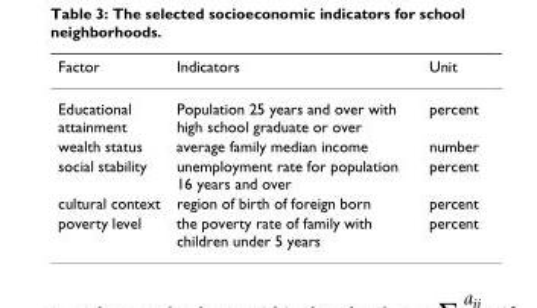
<table><thead><tr><td>Factor</td><td>Indicators</td><td>Unit</td></tr></thead><tbody><tr><td>Educational attainment</td><td>Population 25 years and over with high school graduate or over</td><td>percent</td></tr><tr><td>wealth status</td><td>average family median income</td><td>number</td></tr><tr><td>social stability</td><td>unemployment rate for population 16 years and over</td><td>percent</td></tr><tr><td>cultural context</td><td>region of birth of foreign born</td><td>percent</td></tr><tr><td>poverty level</td><td>the poverty rate of family with children under 5 years</td><td>percent</td></tr></tbody></table>